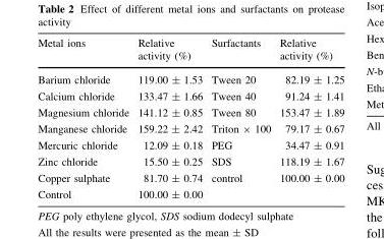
<table><thead><tr><td>Metal ions</td><td>Relative activity (%)</td><td>Surfactants</td><td>Relative activity (%)</td></tr></thead><tbody><tr><td>Barium chloride</td><td>119.00 ± 1.53</td><td>Tween 20</td><td>82.19 ± 1.25</td></tr><tr><td>Calcium chloride</td><td>133.47 ± 1.66</td><td>Tween 40</td><td>91.24 ± 1.41</td></tr><tr><td>Magnesium chloride</td><td>141.12 ± 0.85</td><td>Tween 80</td><td>153.47 ± 1.89</td></tr><tr><td>Manganese chloride</td><td>159.22 ± 2.42</td><td>Triton × 100</td><td>79.17 ± 0.67</td></tr><tr><td>Mercuric chloride</td><td>12.09 ± 0.18</td><td>PEG</td><td>34.47 ± 0.91</td></tr><tr><td>Zinc chloride</td><td>15.50 ± 0.25</td><td>SDS</td><td>118.19 ± 1.67</td></tr><tr><td>Copper sulphate</td><td>81.70 ± 0.74</td><td>control</td><td>100.00 ± 0.00</td></tr><tr><td>Control</td><td>100.00 ± 0.00</td><td></td><td></td></tr></tbody></table>